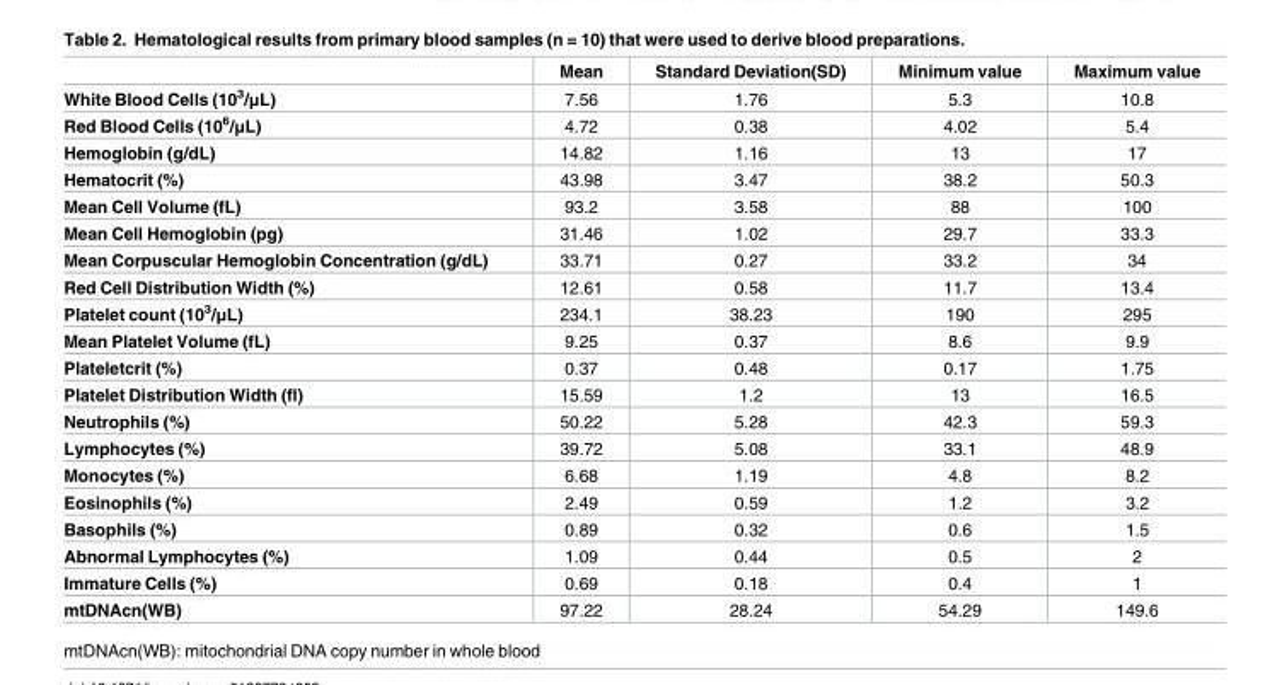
<table><thead><tr><td></td><td>Mean</td><td>Standard Deviation(SD)</td><td>Minimum value</td><td>Maximum value</td></tr></thead><tbody><tr><td>White Blood Cells (10<sup>3</sup>/μL)</td><td>7.56</td><td>1.76</td><td>5.3</td><td>10.8</td></tr><tr><td>Red Blood Cells (10<sup>6</sup>/μL)</td><td>4.72</td><td>0.38</td><td>4.02</td><td>5.4</td></tr><tr><td>Hemoglobin (g/dL)</td><td>14.82</td><td>1.16</td><td>13</td><td>17</td></tr><tr><td>Hematocrit (%)</td><td>43.98</td><td>3.47</td><td>38.2</td><td>50.3</td></tr><tr><td>Mean Cell Volume (fL)</td><td>93.2</td><td>3.58</td><td>88</td><td>100</td></tr><tr><td>Mean Cell Hemoglobin (pg)</td><td>31.46</td><td>1.02</td><td>29.7</td><td>33.3</td></tr><tr><td>Mean Corpuscular Hemoglobin Concentration (g/dL)</td><td>33.71</td><td>0.27</td><td>33.2</td><td>34</td></tr><tr><td>Red Cell Distribution Width (%)</td><td>12.61</td><td>0.58</td><td>11.7</td><td>13.4</td></tr><tr><td>Platelet count (10<sup>3</sup>/μL)</td><td>234.1</td><td>38.23</td><td>190</td><td>295</td></tr><tr><td>Mean Platelet Volume (fL)</td><td>9.25</td><td>0.37</td><td>8.6</td><td>9.9</td></tr><tr><td>Plateletcrit (%)</td><td>0.37</td><td>0.48</td><td>0.17</td><td>1.75</td></tr><tr><td>Platelet Distribution Width (fl)</td><td>15.59</td><td>1.2</td><td>13</td><td>16.5</td></tr><tr><td>Neutrophils (%)</td><td>50.22</td><td>5.28</td><td>42.3</td><td>59.3</td></tr><tr><td>Lymphocytes (%)</td><td>39.72</td><td>5.08</td><td>33.1</td><td>48.9</td></tr><tr><td>Monocytes (%)</td><td>6.68</td><td>1.19</td><td>4.8</td><td>8.2</td></tr><tr><td>Eosinophils (%)</td><td>2.49</td><td>0.59</td><td>1.2</td><td>3.2</td></tr><tr><td>Basophils (%)</td><td>0.89</td><td>0.32</td><td>0.6</td><td>1.5</td></tr><tr><td>Abnormal Lymphocytes (%)</td><td>1.09</td><td>0.44</td><td>0.5</td><td>2</td></tr><tr><td>Immature Cells (%)</td><td>0.69</td><td>0.18</td><td>0.4</td><td>1</td></tr><tr><td>mtDNAcn(WB)</td><td>97.22</td><td>28.24</td><td>54.29</td><td>149.6</td></tr></tbody></table>